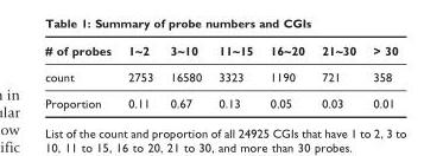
<table><thead><tr><td># of probes</td><td>1~2</td><td>3~10</td><td>11~15</td><td>16~20</td><td>21~30</td><td>&gt; 30</td></tr></thead><tbody><tr><td>count</td><td>2753</td><td>16580</td><td>3323</td><td>1190</td><td>721</td><td>358</td></tr><tr><td>Proportion</td><td>0.11</td><td>0.67</td><td>0.13</td><td>0.05</td><td>0.03</td><td>0.01</td></tr></tbody></table>